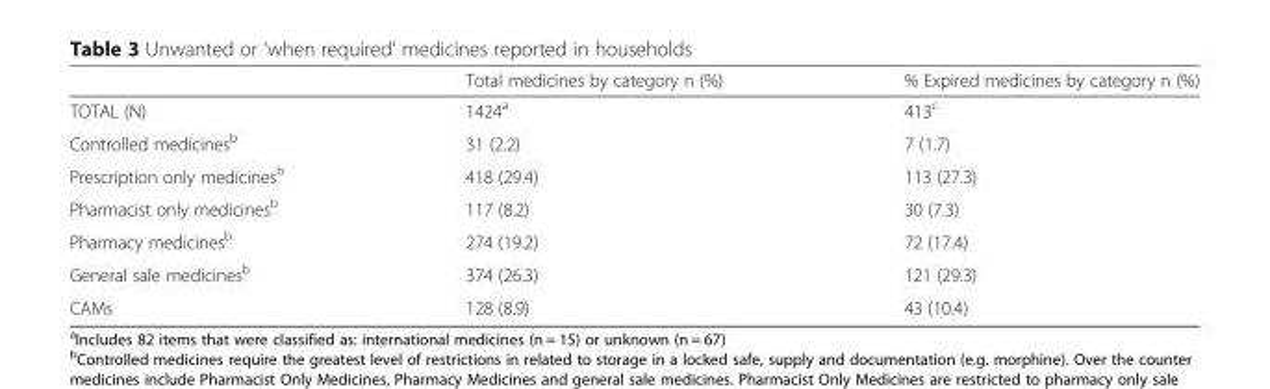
<table><thead><tr><td></td><td>Total medicines by category n (%)</td><td>% Expired medicines by category n (%)</td></tr></thead><tbody><tr><td>TOTAL (N)</td><td>1424<sup>a</sup></td><td>413<sup>c</sup></td></tr><tr><td>Controlled medicines<sup>b</sup></td><td>31 (2.2)</td><td>7 (1.7)</td></tr><tr><td>Prescription only medicines<sup>b</sup></td><td>418 (29.4)</td><td>113 (27.3)</td></tr><tr><td>Pharmacist only medicines<sup>b</sup></td><td>117 (8.2)</td><td>30 (7.3)</td></tr><tr><td>Pharmacy medicines<sup>b</sup></td><td>274 (19.2)</td><td>72 (17.4)</td></tr><tr><td>General sale medicines<sup>b</sup></td><td>374 (26.3)</td><td>121 (29.3)</td></tr><tr><td>CAMs</td><td>128 (8.9)</td><td>43 (10.4)</td></tr></tbody></table>